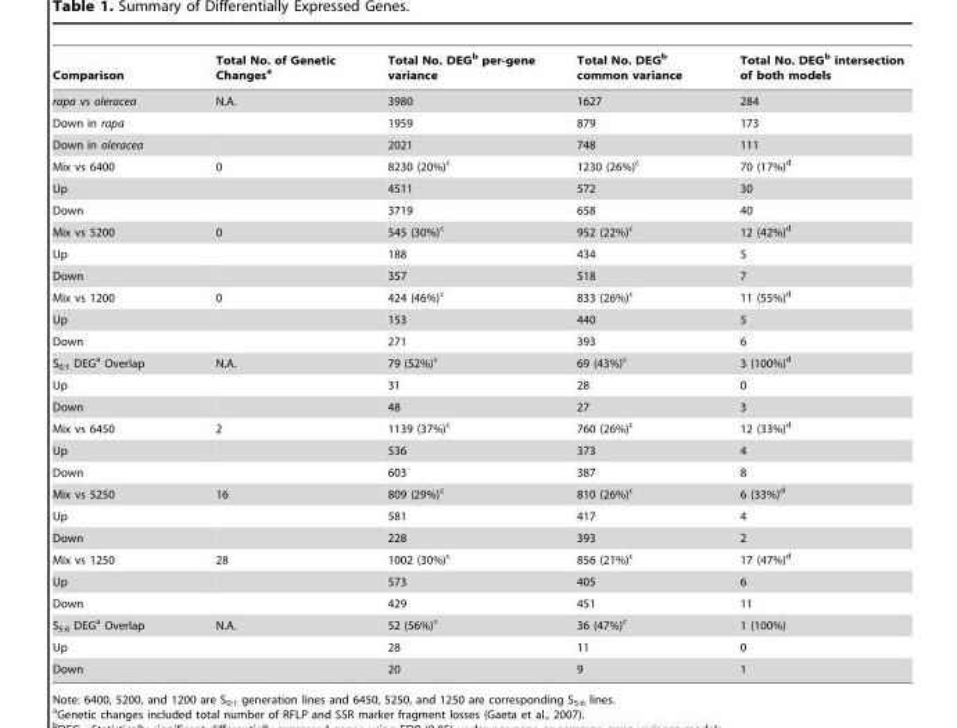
<table><thead><tr><td>Comparison</td><td>Total No. of Genetic Changes<sup>a</sup></td><td>Total No. DEG<sup>b</sup> per-gene variance</td><td>Total No. DEG<sup>b</sup> common variance</td><td>Total No. DEG<sup>b</sup> intersection of both models</td></tr></thead><tbody><tr><td>rapa vs oleracea</td><td>N.A.</td><td>3980</td><td>1627</td><td>284</td></tr><tr><td>Down in rapa</td><td></td><td>1959</td><td>879</td><td>173</td></tr><tr><td>Down in oleracea</td><td></td><td>2021</td><td>748</td><td>111</td></tr><tr><td>Mix vs 6400</td><td>0</td><td>8230 (20%)<sup>c</sup></td><td>1230 (26%)<sup>c</sup></td><td>70 (17%)<sup>d</sup></td></tr><tr><td>Up</td><td></td><td>4511</td><td>572</td><td>30</td></tr><tr><td>Down</td><td></td><td>3719</td><td>658</td><td>40</td></tr><tr><td>Mix vs 5200</td><td>0</td><td>545 (30%)<sup>c</sup></td><td>952 (22%)<sup>c</sup></td><td>12 (42%)<sup>d</sup></td></tr><tr><td>Up</td><td></td><td>188</td><td>434</td><td>5</td></tr><tr><td>Down</td><td></td><td>357</td><td>518</td><td>7</td></tr><tr><td>Mix vs 1200</td><td>0</td><td>424 (46%)<sup>c</sup></td><td>833 (26%)<sup>c</sup></td><td>11 (55%)<sup>d</sup></td></tr><tr><td>Up</td><td></td><td>153</td><td>440</td><td>5</td></tr><tr><td>Down</td><td></td><td>271</td><td>393</td><td>6</td></tr><tr><td>S0:1 DEGa Overlap</td><td>N.A.</td><td>79 (52%)<sup>c</sup></td><td>69 (43%)<sup>c</sup></td><td>3 (100%)<sup>d</sup></td></tr><tr><td>Up</td><td></td><td>31</td><td>28</td><td>0</td></tr><tr><td>Down</td><td></td><td>48</td><td>27</td><td>3</td></tr><tr><td>Mix vs 6450</td><td>2</td><td>1139 (37%)<sup>c</sup></td><td>760 (26%)<sup>c</sup></td><td>12 (33%)<sup>d</sup></td></tr><tr><td>Up</td><td></td><td>536</td><td>373</td><td>4</td></tr><tr><td>Down</td><td></td><td>603</td><td>387</td><td>8</td></tr><tr><td>Mix vs 5250</td><td>16</td><td>809 (29%)<sup>c</sup></td><td>810 (26%)<sup>c</sup></td><td>6 (33%)<sup>d</sup></td></tr><tr><td>Up</td><td></td><td>581</td><td>417</td><td>4</td></tr><tr><td>Down</td><td></td><td>228</td><td>393</td><td>2</td></tr><tr><td>Mix vs 1250</td><td>28</td><td>1002 (30%)<sup>c</sup></td><td>856 (21%)<sup>c</sup></td><td>17 (47%)<sup>d</sup></td></tr><tr><td>Up</td><td></td><td>573</td><td>405</td><td>6</td></tr><tr><td>Down</td><td></td><td>429</td><td>451</td><td>11</td></tr><tr><td>S5:6 DEGa Overlap</td><td>N.A.</td><td>52 (56%)<sup>c</sup></td><td>36 (47%)<sup>c</sup></td><td>1 (100%)</td></tr><tr><td>Up</td><td></td><td>28</td><td>11</td><td>0</td></tr><tr><td>Down</td><td></td><td>20</td><td>9</td><td>1</td></tr></tbody></table>